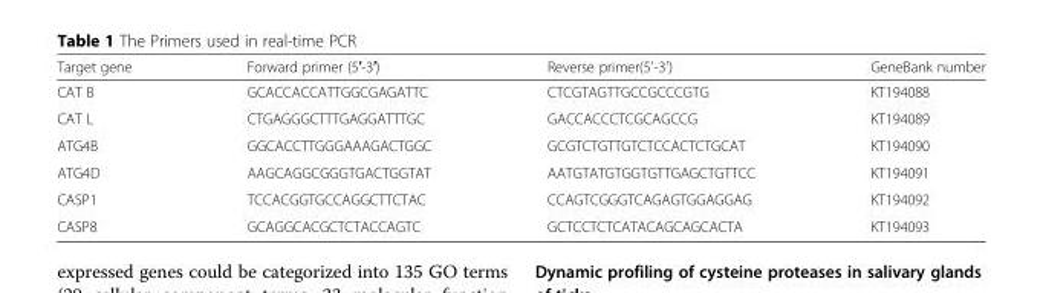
<table><thead><tr><td>Target gene</td><td>Forward primer (5′-3′)</td><td>Reverse primer(5&#x27;-3&#x27;)</td><td>GeneBank number</td></tr></thead><tbody><tr><td>CAT B</td><td>GCACCACCATTGGCGAGATTC</td><td>CTCGTAGTTGCCGCCCGTG</td><td>KT194088</td></tr><tr><td>CAT L</td><td>CTGAGGGCTTTGAGGATTTGC</td><td>GACCACCCTCGCAGCCG</td><td>KT194089</td></tr><tr><td>ATG4B</td><td>GGCACCTTGGGAAAGACTGGC</td><td>GCGTCTGTTGTCTCCACTCTGCAT</td><td>KT194090</td></tr><tr><td>ATG4D</td><td>AAGCAGGCGGGTGACTGGTAT</td><td>AATGTATGTGGTGTTGAGCTGTTCC</td><td>KT194091</td></tr><tr><td>CASP1</td><td>TCCACGGTGCCAGGCTTCTAC</td><td>CCAGTCGGGTCAGAGTGGAGGAG</td><td>KT194092</td></tr><tr><td>CASP8</td><td>GCAGGCACGCTCTACCAGTC</td><td>GCTCCTCTCATACAGCAGCACTA</td><td>KT194093</td></tr></tbody></table>